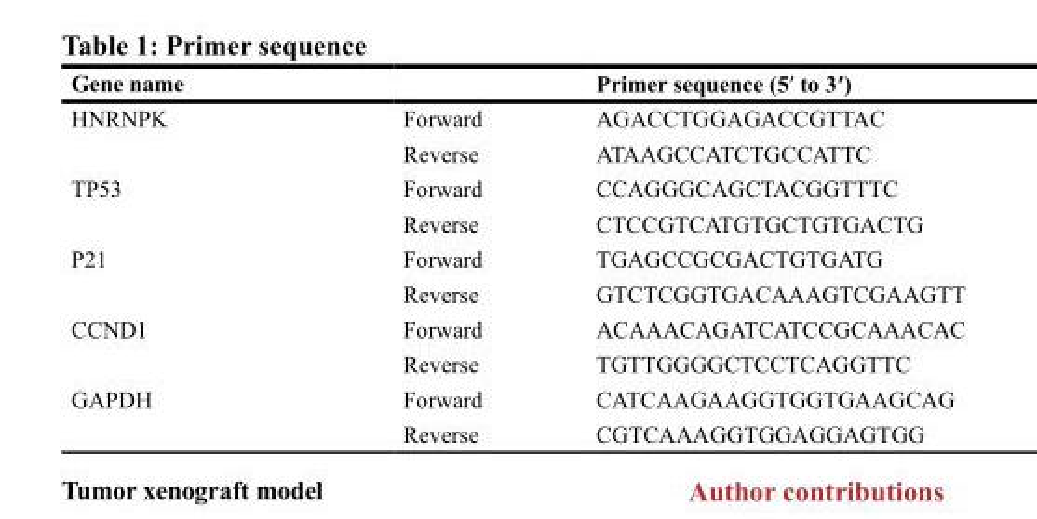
<table><thead><tr><td>Gene name</td><td></td><td>Primer sequence (5′ to 3′)</td></tr></thead><tbody><tr><td rowspan="2">HNRNPK</td><td>Forward</td><td>AGACCTGGAGACCGTTAC</td></tr><tr><td>Reverse</td><td>ATAAGCCATCTGCCATTC</td></tr><tr><td rowspan="2">TP53</td><td>Forward</td><td>CCAGGGCAGCTACGGTTTC</td></tr><tr><td>Reverse</td><td>CTCCGTCATGTGCTGTGACTG</td></tr><tr><td rowspan="2">P21</td><td>Forward</td><td>TGAGCCGCGACTGTGATG</td></tr><tr><td>Reverse</td><td>GTCTCGGTGACAAAGTCGAAGTT</td></tr><tr><td rowspan="2">CCND1</td><td>Forward</td><td>ACAAACAGATCATCCGCAAACAC</td></tr><tr><td>Reverse</td><td>TGTTGGGGCTCCTCAGGTTC</td></tr><tr><td rowspan="2">GAPDH</td><td>Forward</td><td>CATCAAGAAGGTGGTGAAGCAG</td></tr><tr><td>Reverse</td><td>CGTCAAAGGTGGAGGAGTGG</td></tr></tbody></table>